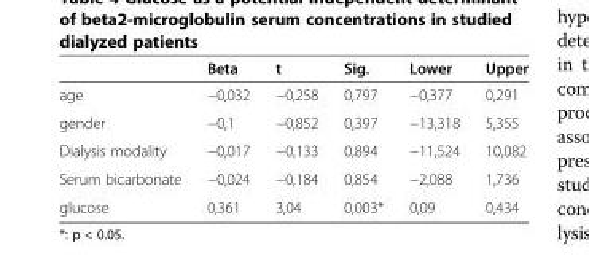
<table><thead><tr><td></td><td>Beta</td><td>t</td><td>Sig.</td><td>Lower</td><td>Upper</td></tr></thead><tbody><tr><td>age</td><td>−0,032</td><td>−0,258</td><td>0,797</td><td>−0,377</td><td>0,291</td></tr><tr><td>gender</td><td>−0,1</td><td>−0,852</td><td>0,397</td><td>−13,318</td><td>5,355</td></tr><tr><td>Dialysis modality</td><td>−0,017</td><td>−0,133</td><td>0,894</td><td>−11,524</td><td>10,082</td></tr><tr><td>Serum bicarbonate</td><td>−0,024</td><td>−0,184</td><td>0,854</td><td>−2,088</td><td>1,736</td></tr><tr><td>glucose</td><td>0,361</td><td>3,04</td><td>0,003*</td><td>0,09</td><td>0,434</td></tr></tbody></table>